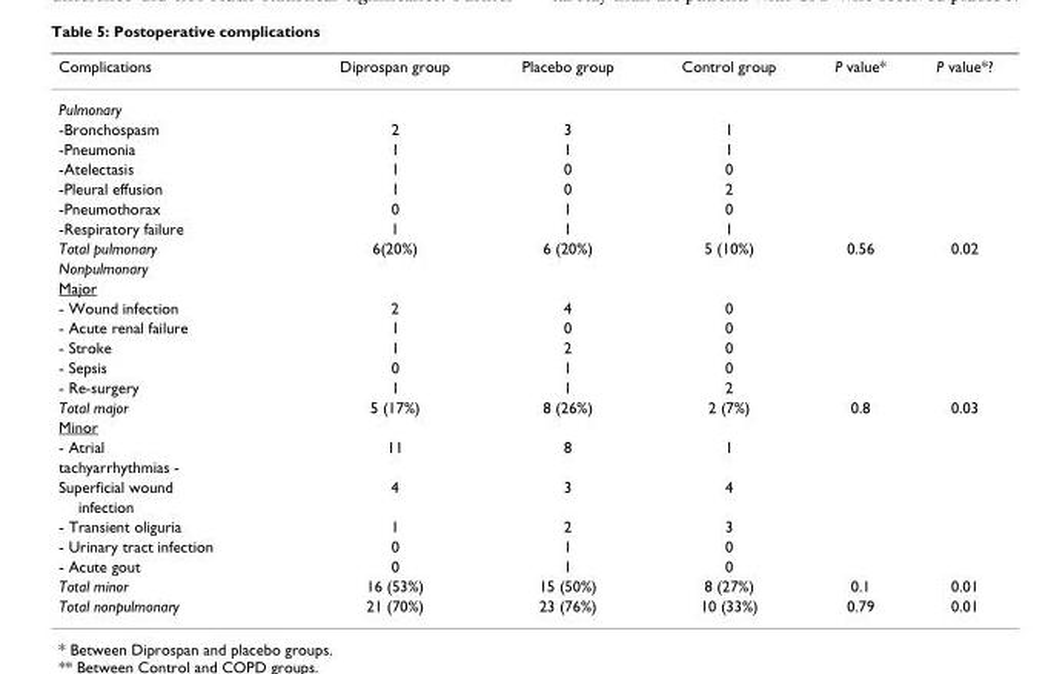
<table><thead><tr><td>Complications</td><td>Diprospan group</td><td>Placebo group</td><td>Control group</td><td>P value*</td><td>P value*?</td></tr></thead><tbody><tr><td colspan="6">Pulmonary</td></tr><tr><td>-Bronchospasm</td><td>2</td><td>3</td><td>1</td><td></td><td></td></tr><tr><td>-Pneumonia</td><td>1</td><td>1</td><td>1</td><td></td><td></td></tr><tr><td>-Atelectasis</td><td>1</td><td>0</td><td>0</td><td></td><td></td></tr><tr><td>-Pleural effusion</td><td>1</td><td>0</td><td>2</td><td></td><td></td></tr><tr><td>-Pneumothorax</td><td>0</td><td>1</td><td>0</td><td></td><td></td></tr><tr><td>-Respiratory failure</td><td>1</td><td>1</td><td>1</td><td></td><td></td></tr><tr><td>Total pulmonary</td><td>6(20%)</td><td>6 (20%)</td><td>5 (10%)</td><td>0.56</td><td>0.02</td></tr><tr><td colspan="6">Nonpulmonary</td></tr><tr><td colspan="6">Major</td></tr><tr><td>- Wound infection</td><td>2</td><td>4</td><td>0</td><td></td><td></td></tr><tr><td>- Acute renal failure</td><td>1</td><td>0</td><td>0</td><td></td><td></td></tr><tr><td>- Stroke</td><td>1</td><td>2</td><td>0</td><td></td><td></td></tr><tr><td>- Sepsis</td><td>0</td><td>1</td><td>0</td><td></td><td></td></tr><tr><td>- Re-surgery</td><td>1</td><td>1</td><td>2</td><td></td><td></td></tr><tr><td>Total major</td><td>5 (17%)</td><td>8 (26%)</td><td>2 (7%)</td><td>0.8</td><td>0.03</td></tr><tr><td colspan="6">Minor</td></tr><tr><td>- Atrial</td><td>11</td><td>8</td><td>1</td><td></td><td></td></tr><tr><td colspan="6">tachyarrhythmias -</td></tr><tr><td>Superficial wound</td><td>4</td><td>3</td><td>4</td><td></td><td></td></tr><tr><td colspan="6">infection</td></tr><tr><td>- Transient oliguria</td><td>1</td><td>2</td><td>3</td><td></td><td></td></tr><tr><td>- Urinary tract infection</td><td>0</td><td>1</td><td>0</td><td></td><td></td></tr><tr><td>- Acute gout</td><td>0</td><td>1</td><td>0</td><td></td><td></td></tr><tr><td>Total minor</td><td>16 (53%)</td><td>15 (50%)</td><td>8 (27%)</td><td>0.1</td><td>0.01</td></tr><tr><td>Total nonpulmonary</td><td>21 (70%)</td><td>23 (76%)</td><td>10 (33%)</td><td>0.79</td><td>0.01</td></tr></tbody></table>